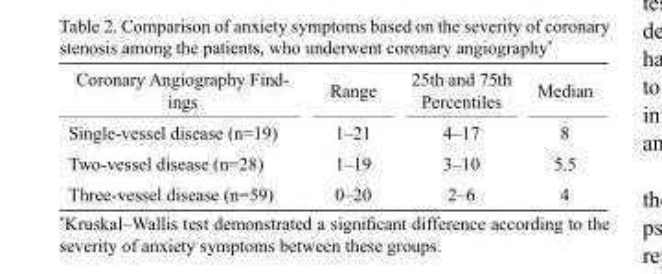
<table><thead><tr><td>Coronary Angiography Find- ings</td><td>Range</td><td>25th and 75th Percentiles</td><td>Median</td></tr></thead><tbody><tr><td>Single-vessel disease (n=19)</td><td>1–21</td><td>4–17</td><td>8</td></tr><tr><td>Two-vessel disease (n=28)</td><td>1–19</td><td>3–10</td><td>5.5</td></tr><tr><td>Three-vessel disease (n=59)</td><td>0–20</td><td>2–6</td><td>4</td></tr></tbody></table>